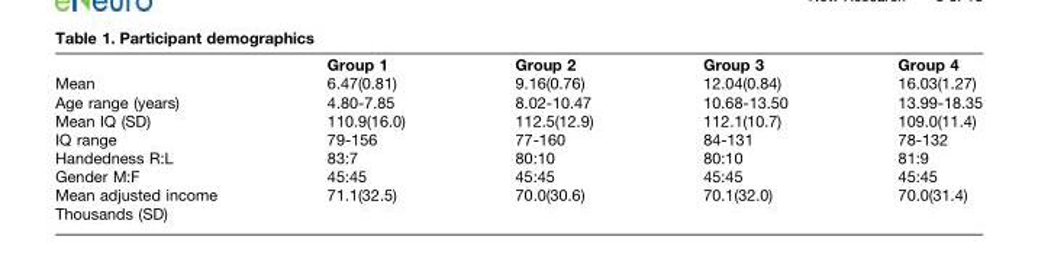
<table><thead><tr><td></td><td>Group 1</td><td>Group 2</td><td>Group 3</td><td>Group 4</td></tr></thead><tbody><tr><td>Mean</td><td>6.47(0.81)</td><td>9.16(0.76)</td><td>12.04(0.84)</td><td>16.03(1.27)</td></tr><tr><td>Age range (years)</td><td>4.80-7.85</td><td>8.02-10.47</td><td>10.68-13.50</td><td>13.99-18.35</td></tr><tr><td>Mean IQ (SD)</td><td>110.9(16.0)</td><td>112.5(12.9)</td><td>112.1(10.7)</td><td>109.0(11.4)</td></tr><tr><td>IQ range</td><td>79-156</td><td>77-160</td><td>84-131</td><td>78-132</td></tr><tr><td>Handedness R:L</td><td>83:7</td><td>80:10</td><td>80:10</td><td>81:9</td></tr><tr><td>Gender M:F</td><td>45:45</td><td>45:45</td><td>45:45</td><td>45:45</td></tr><tr><td>Mean adjusted income</td><td>71.1(32.5)</td><td>70.0(30.6)</td><td>70.1(32.0)</td><td>70.0(31.4)</td></tr></tbody></table>